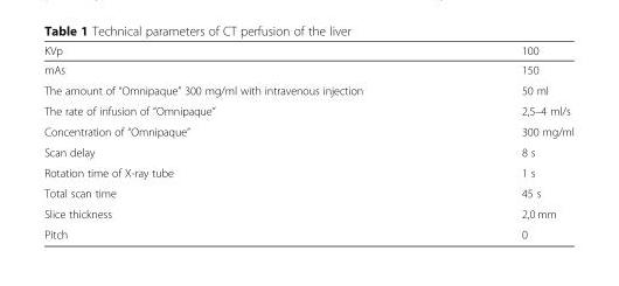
<table><thead><tr><td>KVp</td><td>100</td></tr></thead><tbody><tr><td>mAs</td><td>150</td></tr><tr><td>The amount of “Omnipaque” 300 mg/ml with intravenous injection</td><td>50 ml</td></tr><tr><td>The rate of infusion of “Omnipaque”</td><td>2,5–4 ml/s</td></tr><tr><td>Concentration of “Omnipaque”</td><td>300 mg/ml</td></tr><tr><td>Scan delay</td><td>8 s</td></tr><tr><td>Rotation time of X-ray tube</td><td>1 s</td></tr><tr><td>Total scan time</td><td>45 s</td></tr><tr><td>Slice thickness</td><td>2,0 mm</td></tr><tr><td>Pitch</td><td>0</td></tr></tbody></table>